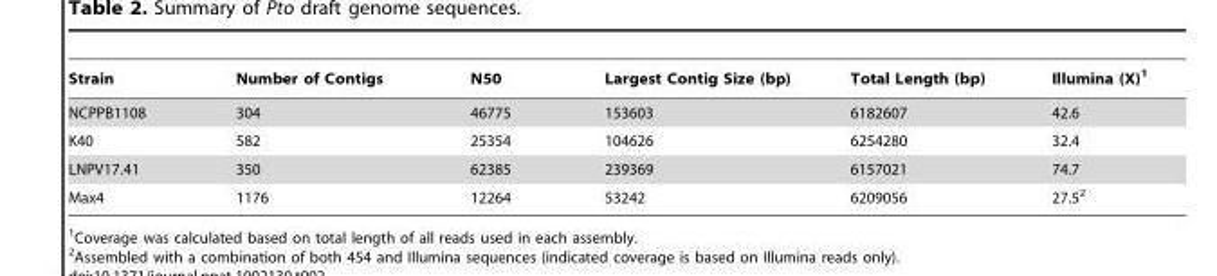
<table><thead><tr><td>Strain</td><td>Number of Contigs</td><td>N50</td><td>Largest Contig Size (bp)</td><td>Total Length (bp)</td><td>Illumina (X)<sup>1</sup></td></tr></thead><tbody><tr><td>NCPPB1108</td><td>304</td><td>46775</td><td>153603</td><td>6182607</td><td>42.6</td></tr><tr><td>K40</td><td>582</td><td>25354</td><td>104626</td><td>6254280</td><td>32.4</td></tr><tr><td>LNPV17.41</td><td>350</td><td>62385</td><td>239369</td><td>6157021</td><td>74.7</td></tr><tr><td>Max4</td><td>1176</td><td>12264</td><td>53242</td><td>6209056</td><td>27.5<sup>2</sup></td></tr></tbody></table>